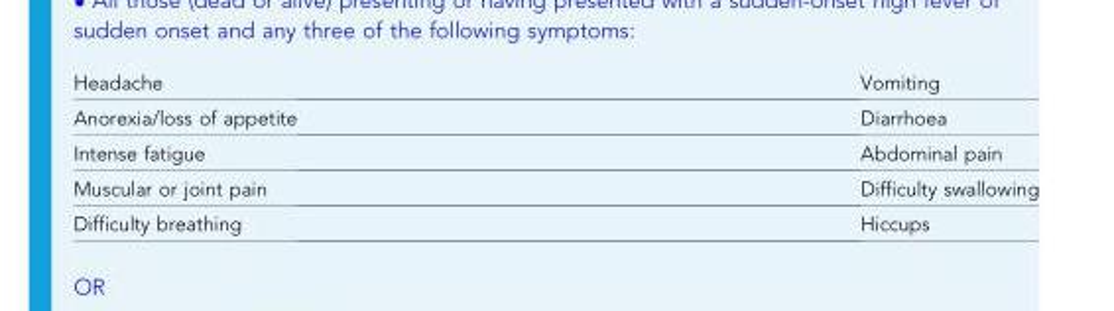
<table><tbody><tr><td>Headache</td><td>Vomiting</td></tr><tr><td>Anorexia/loss of appetite</td><td>Diarrhoea</td></tr><tr><td>Intense fatigue</td><td>Abdominal pain</td></tr><tr><td>Muscular or joint pain</td><td>Difficulty swallowing</td></tr><tr><td>Difficulty breathing</td><td>Hiccups</td></tr></tbody></table>